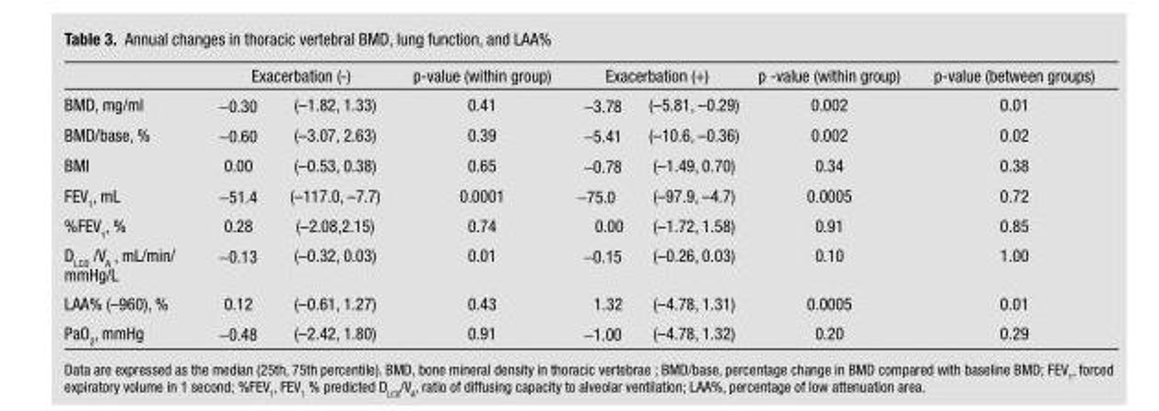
<table><thead><tr><td rowspan="2">BMD, mg/ml</td><td colspan="2">Exacerbation (-)</td><td rowspan="2">p-value (within group) 0.41</td><td colspan="2">Exacerbation (+)</td><td rowspan="2">p -value (within group) 0.002</td><td rowspan="2">p-value (between groups) 0.01</td></tr><tr><td>−0.30</td><td>(–1.82, 1.33)</td><td>−3.78</td><td>(–5.81, –0.29)</td></tr></thead><tbody><tr><td>BMD/base, %</td><td>−0.60</td><td>(–3.07, 2.63)</td><td>0.39</td><td>−5.41</td><td>(–10.6, –0.36)</td><td>0.002</td><td>0.02</td></tr><tr><td>BMI</td><td>0.00</td><td>(–0.53, 0.38)</td><td>0.65</td><td>−0.78</td><td>(–1.49, 0.70)</td><td>0.34</td><td>0.38</td></tr><tr><td>FEV<sub>1</sub>, mL</td><td>−51.4</td><td>(–117.0, –7.7)</td><td>0.0001</td><td>−75.0</td><td>(–97.9, –4.7)</td><td>0.0005</td><td>0.72</td></tr><tr><td>%FEV<sub>1</sub>, %</td><td>0.28</td><td>(–2.08,2.15)</td><td>0.74</td><td>0.00</td><td>(–1.72, 1.58)</td><td>0.91</td><td>0.85</td></tr><tr><td>D<sub>LCO</sub> /V<sub>A</sub> , mL/min/ mmHg/L</td><td>−0.13</td><td>(–0.32, 0.03)</td><td>0.01</td><td>−0.15</td><td>(–0.26, 0.03)</td><td>0.10</td><td>1.00</td></tr><tr><td>LAA% (–960), %</td><td>0.12</td><td>(–0.61, 1.27)</td><td>0.43</td><td>1.32</td><td>(–4.78, 1.31)</td><td>0.0005</td><td>0.01</td></tr><tr><td>PaO<sub>2</sub>, mmHg</td><td>−0.48</td><td>(–2.42, 1.80)</td><td>0.91</td><td>−1.00</td><td>(–4.78, 1.32)</td><td>0.20</td><td>0.29</td></tr></tbody></table>